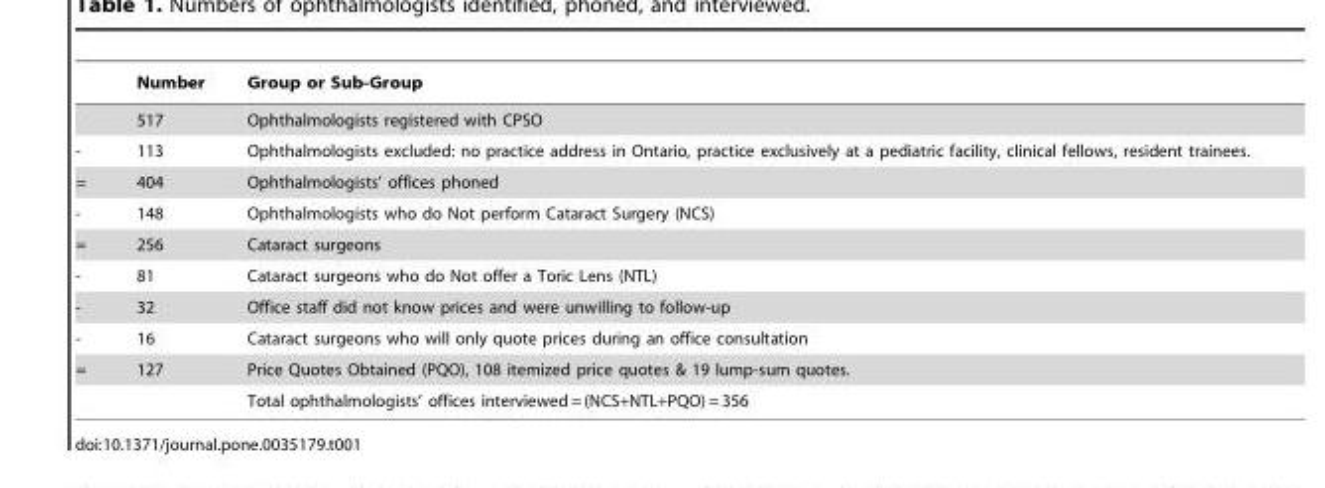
<table><thead><tr><td></td><td>Number</td><td>Group or Sub-Group</td></tr></thead><tbody><tr><td></td><td>517</td><td>Ophthalmologists registered with CPSO</td></tr><tr><td>-</td><td>113</td><td>Ophthalmologists excluded: no practice address in Ontario, practice exclusively at a pediatric facility, clinical fellows, resident trainees.</td></tr><tr><td>=</td><td>404</td><td>Ophthalmologists’ offices phoned</td></tr><tr><td>-</td><td>148</td><td>Ophthalmologists who do Not perform Cataract Surgery (NCS)</td></tr><tr><td>=</td><td>256</td><td>Cataract surgeons</td></tr><tr><td>-</td><td>81</td><td>Cataract surgeons who do Not offer a Toric Lens (NTL)</td></tr><tr><td>-</td><td>32</td><td>Office staff did not know prices and were unwilling to follow-up</td></tr><tr><td>-</td><td>16</td><td>Cataract surgeons who will only quote prices during an office consultation</td></tr><tr><td rowspan="2">=</td><td>127</td><td>Price Quotes Obtained (PQO), 108 itemized price quotes &amp; 19 lump-sum quotes.</td></tr><tr><td></td><td>Total ophthalmologists’ offices interviewed = (NCS+NTL+PQO) = 356</td></tr></tbody></table>